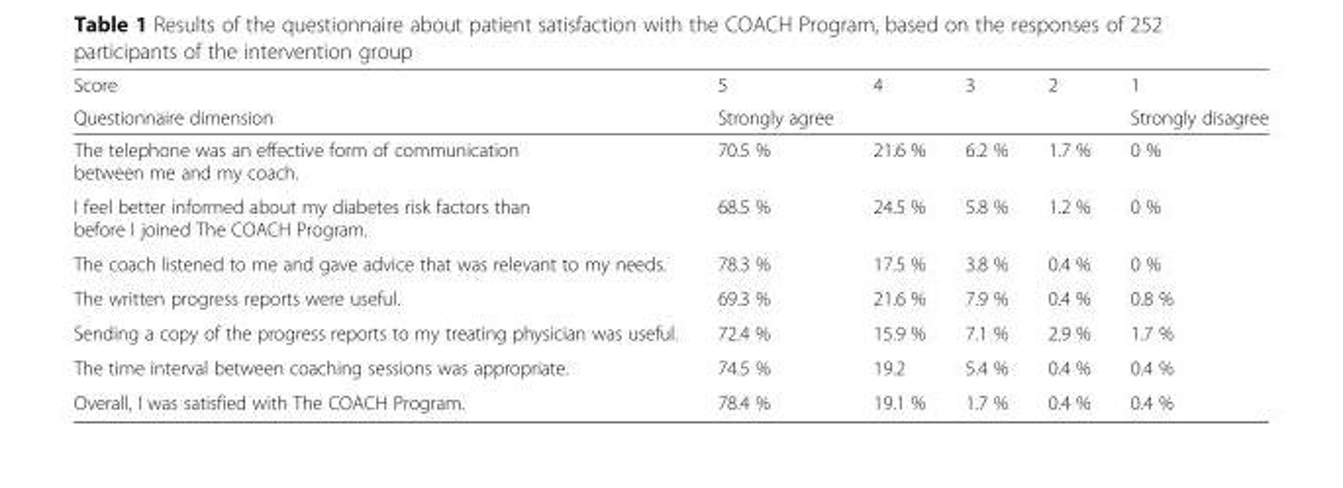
<table><thead><tr><td rowspan="2">Score Questionnaire dimension</td><td rowspan="2">5 Strongly agree</td><td rowspan="2">4</td><td rowspan="2">3</td><td rowspan="2">2</td><td rowspan="2">1 Strongly disagree</td></tr><tr></tr></thead><tbody><tr><td>The telephone was an effective form of communication between me and my coach.</td><td>70.5 %</td><td>21.6 %</td><td>6.2 %</td><td>1.7 %</td><td>0 %</td></tr><tr><td>I feel better informed about my diabetes risk factors than before I joined The COACH Program.</td><td>68.5 %</td><td>24.5 %</td><td>5.8 %</td><td>1.2 %</td><td>0 %</td></tr><tr><td>The coach listened to me and gave advice that was relevant to my needs.</td><td>78.3 %</td><td>17.5 %</td><td>3.8 %</td><td>0.4 %</td><td>0 %</td></tr><tr><td>The written progress reports were useful.</td><td>69.3 %</td><td>21.6 %</td><td>7.9 %</td><td>0.4 %</td><td>0.8 %</td></tr><tr><td>Sending a copy of the progress reports to my treating physician was useful.</td><td>72.4 %</td><td>15.9 %</td><td>7.1 %</td><td>2.9 %</td><td>1.7 %</td></tr><tr><td>The time interval between coaching sessions was appropriate.</td><td>74.5 %</td><td>19.2</td><td>5.4 %</td><td>0.4 %</td><td>0.4 %</td></tr><tr><td>Overall, I was satisfied with The COACH Program.</td><td>78.4 %</td><td>19.1 %</td><td>1.7 %</td><td>0.4 %</td><td>0.4 %</td></tr></tbody></table>